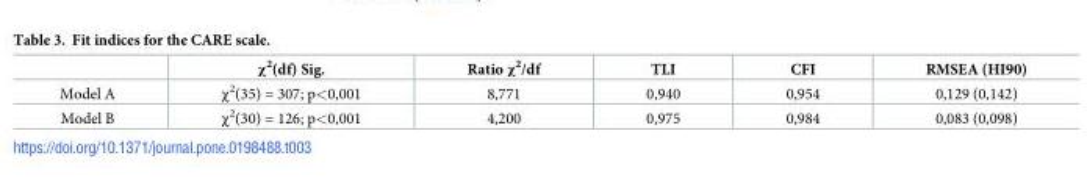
<table><thead><tr><td></td><td>χ<sup>2</sup>(df) Sig.</td><td>Ratio χ<sup>2</sup>/df</td><td>TLI</td><td>CFI</td><td>RMSEA (HI90)</td></tr></thead><tbody><tr><td>Model A</td><td>χ<sup>2</sup>(35) = 307; p&lt;0,001</td><td>8,771</td><td>0,940</td><td>0,954</td><td>0,129 (0,142)</td></tr><tr><td>Model B</td><td>χ<sup>2</sup>(30) = 126; p&lt;0,001</td><td>4,200</td><td>0,975</td><td>0,984</td><td>0,083 (0,098)</td></tr></tbody></table>